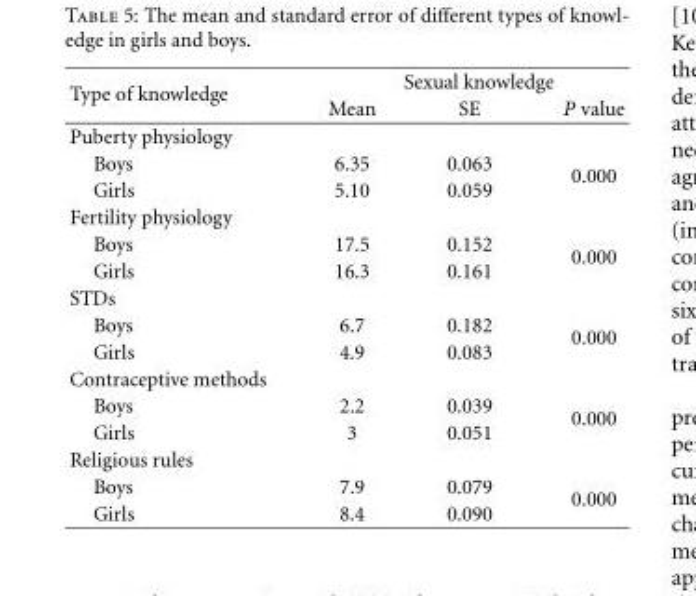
<table><thead><tr><td rowspan="2">Type of knowledge</td><td colspan="3">Sexual knowledge</td></tr><tr><td>Mean</td><td>SE</td><td>P value</td></tr></thead><tbody><tr><td colspan="4">Puberty physiology</td></tr><tr><td>Boys</td><td>6.35</td><td>0.063</td><td rowspan="2">0.000</td></tr><tr><td>Girls</td><td>5.10</td><td>0.059</td></tr><tr><td colspan="4">Fertility physiology</td></tr><tr><td>Boys</td><td>17.5</td><td>0.152</td><td rowspan="2">0.000</td></tr><tr><td>Girls</td><td>16.3</td><td>0.161</td></tr><tr><td colspan="4">STDs</td></tr><tr><td>Boys</td><td>6.7</td><td>0.182</td><td rowspan="2">0.000</td></tr><tr><td>Girls</td><td>4.9</td><td>0.083</td></tr><tr><td colspan="4">Contraceptive methods</td></tr><tr><td>Boys</td><td>2.2</td><td>0.039</td><td rowspan="2">0.000</td></tr><tr><td>Girls</td><td>3</td><td>0.051</td></tr><tr><td colspan="4">Religious rules</td></tr><tr><td>Boys</td><td>7.9</td><td>0.079</td><td rowspan="2">0.000</td></tr><tr><td>Girls</td><td>8.4</td><td>0.090</td></tr></tbody></table>